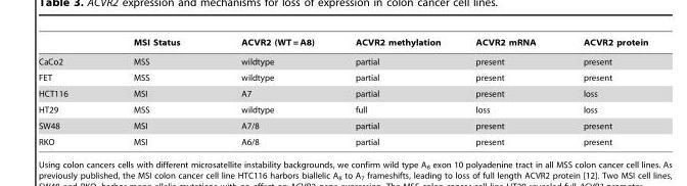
<table><thead><tr><td></td><td>MSI Status</td><td>ACVR2 (WT = A8)</td><td>ACVR2 methylation</td><td>ACVR2 mRNA</td><td>ACVR2 protein</td></tr></thead><tbody><tr><td>CaCo2</td><td>MSS</td><td>wildtype</td><td>partial</td><td>present</td><td>present</td></tr><tr><td>FET</td><td>MSS</td><td>wildtype</td><td>partial</td><td>present</td><td>present</td></tr><tr><td>HCT116</td><td>MSI</td><td>A7</td><td>partial</td><td>present</td><td>loss</td></tr><tr><td>HT29</td><td>MSS</td><td>wildtype</td><td>full</td><td>loss</td><td>loss</td></tr><tr><td>SW48</td><td>MSI</td><td>A7/8</td><td>partial</td><td>present</td><td>present</td></tr><tr><td>RKO</td><td>MSI</td><td>A6/8</td><td>partial</td><td>present</td><td>present</td></tr></tbody></table>